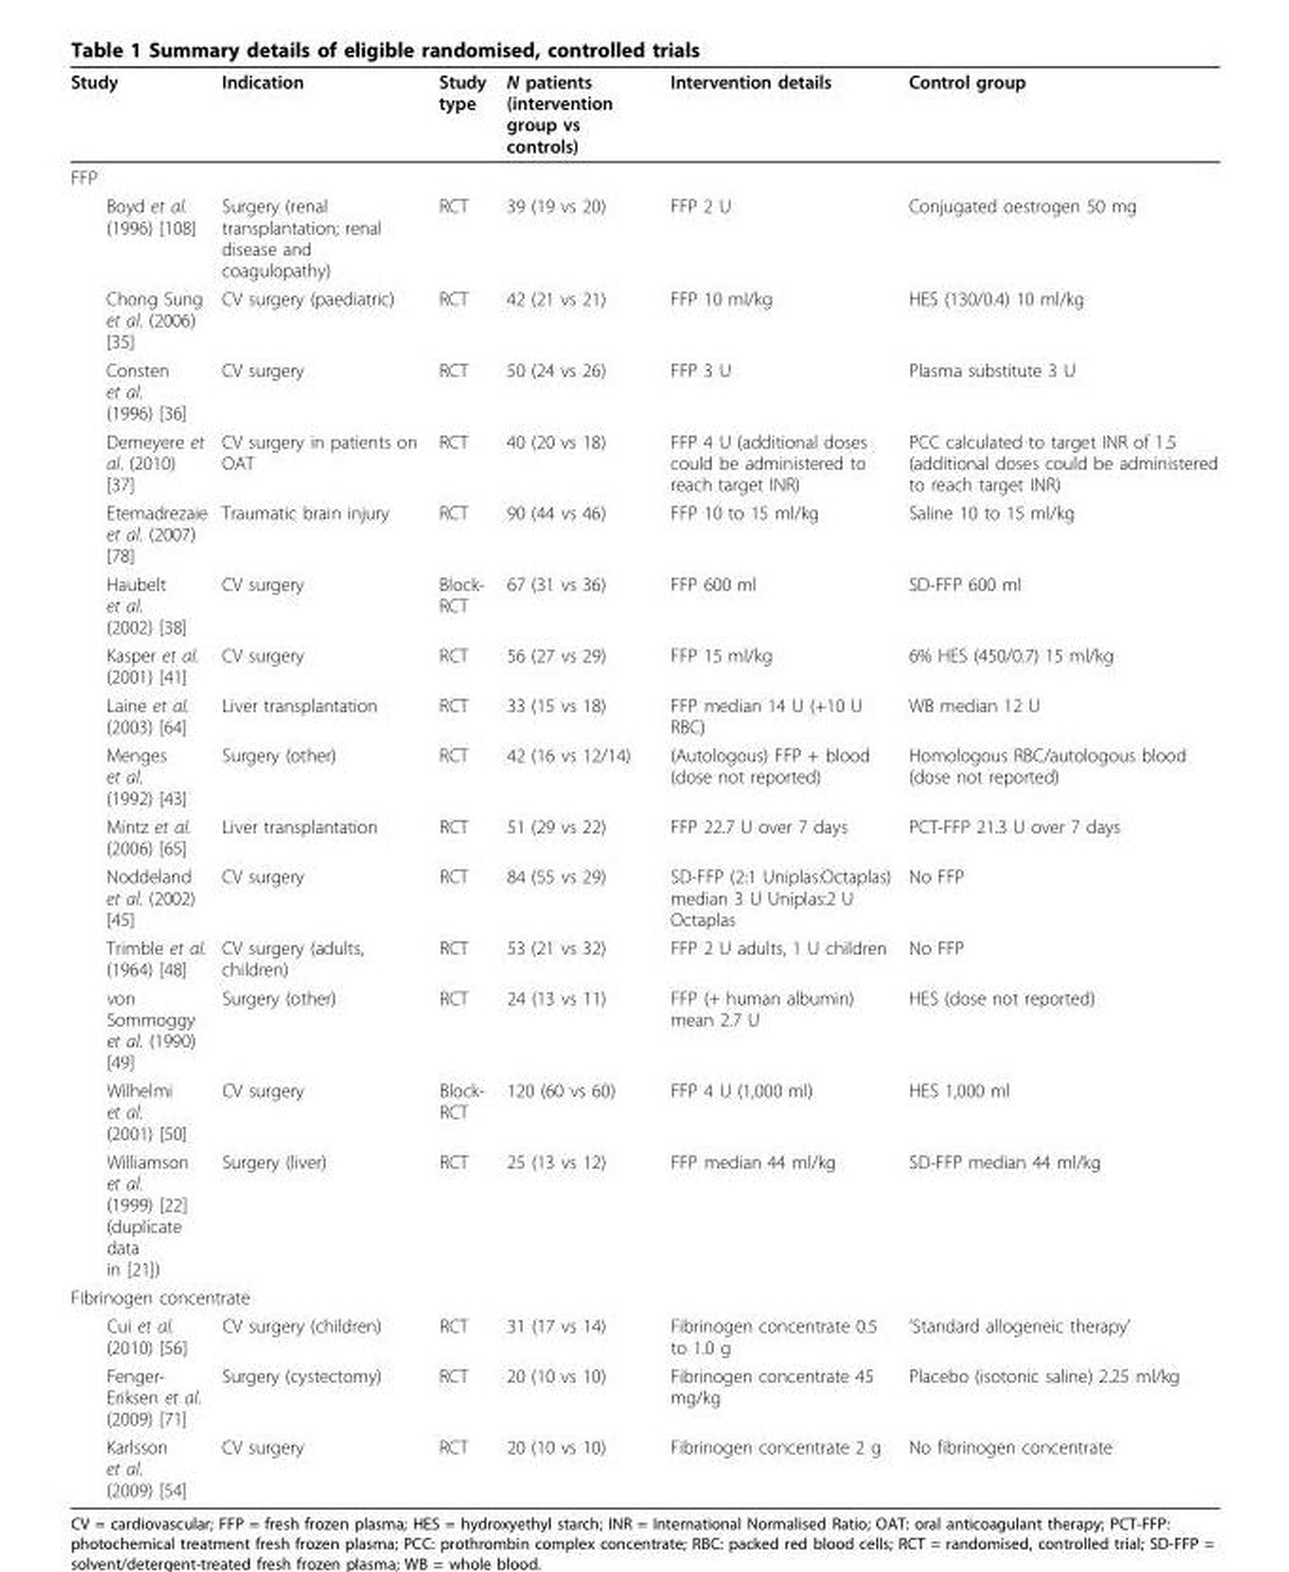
<table><thead><tr><td>Study</td><td>Indication</td><td>Study type</td><td>N patients (intervention group vs controls)</td><td>Intervention details</td><td>Control group</td></tr></thead><tbody><tr><td colspan="6">FFP</td></tr><tr><td>Boyd et al. (1996) [108]</td><td>Surgery (renal transplantation; renal disease and coagulopathy)</td><td>RCT</td><td>39 (19 vs 20)</td><td>FFP 2 U</td><td>Conjugated oestrogen 50 mg</td></tr><tr><td>Chong Sung et al. (2006) [35]</td><td>CV surgery (paediatric)</td><td>RCT</td><td>42 (21 vs 21)</td><td>FFP 10 ml/kg</td><td>HES (130/0.4) 10 ml/kg</td></tr><tr><td>Consten et al. (1996) [36]</td><td>CV surgery</td><td>RCT</td><td>50 (24 vs 26)</td><td>FFP 3 U</td><td>Plasma substitute 3 U</td></tr><tr><td>Demeyere et al. (2010) [37]</td><td>CV surgery in patients on OAT</td><td>RCT</td><td>40 (20 vs 18)</td><td>FFP 4 U (additional doses could be administered to reach target INR)</td><td>PCC calculated to target INR of 1.5 (additional doses could be administered to reach target INR)</td></tr><tr><td>Etemadrezaie et al. (2007) [78]</td><td>Traumatic brain injury</td><td>RCT</td><td>90 (44 vs 46)</td><td>FFP 10 to 15 ml/kg</td><td>Saline 10 to 15 ml/kg</td></tr><tr><td>Haubelt et al. (2002) [38]</td><td>CV surgery</td><td>Block- RCT</td><td>67 (31 vs 36)</td><td>FFP 600 ml</td><td>SD-FFP 600 ml</td></tr><tr><td>Kasper et al. (2001) [41]</td><td>CV surgery</td><td>RCT</td><td>56 (27 vs 29)</td><td>FFP 15 ml/kg</td><td>6% HES (450/0.7) 15 ml/kg</td></tr><tr><td>Laine et al. (2003) [64]</td><td>Liver transplantation</td><td>RCT</td><td>33 (15 vs 18)</td><td>FFP median 14 U (+10 U RBC)</td><td>WB median 12 U</td></tr><tr><td>Menges et al. (1992) [43]</td><td>Surgery (other)</td><td>RCT</td><td>42 (16 vs 12/14)</td><td>(Autologous) FFP + blood (dose not reported)</td><td>Homologous RBC/autologous blood (dose not reported)</td></tr><tr><td>Mintz et al. (2006) [65]</td><td>Liver transplantation</td><td>RCT</td><td>51 (29 vs 22)</td><td>FFP 22.7 U over 7 days</td><td>PCT-FFP 21.3 U over 7 days</td></tr><tr><td>Noddeland et al. (2002) [45]</td><td>CV surgery</td><td>RCT</td><td>84 (55 vs 29)</td><td>SD-FFP (2:1 Uniplas:Octaplas) median 3 U Uniplas:2 U Octaplas</td><td>No FFP</td></tr><tr><td>Trimble et al. (1964) [48]</td><td>CV surgery (adults, children)</td><td>RCT</td><td>53 (21 vs 32)</td><td>FFP 2 U adults, 1 U children</td><td>No FFP</td></tr><tr><td>von Sommoggy et al. (1990) [49]</td><td>Surgery (other)</td><td>RCT</td><td>24 (13 vs 11)</td><td>FFP (+ human albumin) mean 2.7 U</td><td>HES (dose not reported)</td></tr><tr><td>Wilhelmi et al. (2001) [50]</td><td>CV surgery</td><td>Block- RCT</td><td>120 (60 vs 60)</td><td>FFP 4 U (1,000 ml)</td><td>HES 1,000 ml</td></tr><tr><td>Williamson et al. (1999) [22] (duplicate data in [21])</td><td>Surgery (liver)</td><td>RCT</td><td>25 (13 vs 12)</td><td>FFP median 44 ml/kg</td><td>SD-FFP median 44 ml/kg</td></tr><tr><td colspan="6">Fibrinogen concentrate</td></tr><tr><td>Cui et al. (2010) [56]</td><td>CV surgery (children)</td><td>RCT</td><td>31 (17 vs 14)</td><td>Fibrinogen concentrate 0.5 to 1.0 g</td><td>’Standard allogeneic therapy’</td></tr><tr><td>Fenger- Eriksen et al. (2009) [71]</td><td>Surgery (cystectomy)</td><td>RCT</td><td>20 (10 vs 10)</td><td>Fibrinogen concentrate 45 mg/kg</td><td>Placebo (isotonic saline) 2.25 ml/kg</td></tr><tr><td>Karlsson et al. (2009) [54]</td><td>CV surgery</td><td>RCT</td><td>20 (10 vs 10)</td><td>Fibrinogen concentrate 2 g</td><td>No fibrinogen concentrate</td></tr></tbody></table>